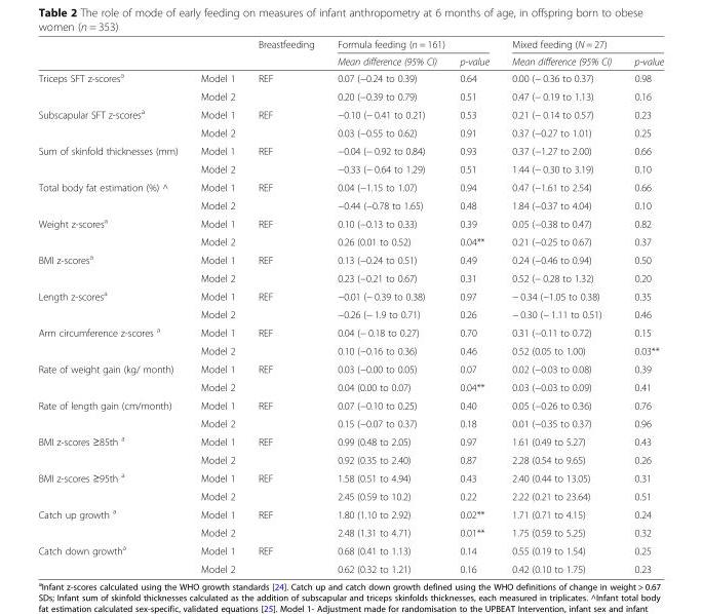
<table><thead><tr><td rowspan="2"></td><td rowspan="2"></td><td rowspan="2">Breastfeeding</td><td colspan="2">Formula feeding (n = 161)</td><td colspan="2">Mixed feeding (N = 27)</td></tr><tr><td>Mean difference (95% CI)</td><td>p-value</td><td>Mean difference (95% CI)</td><td>p-value</td></tr></thead><tbody><tr><td rowspan="2">Triceps SFT z-scores<sup>a</sup></td><td>Model 1</td><td rowspan="2">REF</td><td>0.07 (−0.24 to 0.39)</td><td>0.64</td><td>0.00 (− 0.36 to 0.37)</td><td>0.98</td></tr><tr><td>Model 2</td><td>0.20 (−0.39 to 0.79)</td><td>0.51</td><td>0.47 (− 0.19 to 1.13)</td><td>0.16</td></tr><tr><td rowspan="2">Subscapular SFT z-scores<sup>a</sup></td><td>Model 1</td><td rowspan="2">REF</td><td>−0.10 (− 0.41 to 0.21)</td><td>0.53</td><td>0.21 (− 0.14 to 0.57)</td><td>0.23</td></tr><tr><td>Model 2</td><td>0.03 (−0.55 to 0.62)</td><td>0.91</td><td>0.37 (−0.27 to 1.01)</td><td>0.25</td></tr><tr><td rowspan="2">Sum of skinfold thicknesses (mm)</td><td>Model 1</td><td rowspan="2">REF</td><td>−0.04 (− 0.92 to 0.84)</td><td>0.93</td><td>0.37 (−1.27 to 2.00)</td><td>0.66</td></tr><tr><td>Model 2</td><td>−0.33 (− 0.64 to 1.29)</td><td>0.51</td><td>1.44 (− 0.30 to 3.19)</td><td>0.10</td></tr><tr><td rowspan="2">Total body fat estimation (%) ^</td><td>Model 1</td><td rowspan="2">REF</td><td>0.04 (−1.15 to 1.07)</td><td>0.94</td><td>0.47 (−1.61 to 2.54)</td><td>0.66</td></tr><tr><td>Model 2</td><td>−0.44 (−0.78 to 1.65)</td><td>0.48</td><td>1.84 (−0.37 to 4.04)</td><td>0.10</td></tr><tr><td rowspan="2">Weight z-scores<sup>a</sup></td><td>Model 1</td><td rowspan="2">REF</td><td>0.10 (−0.13 to 0.33)</td><td>0.39</td><td>0.05 (−0.38 to 0.47)</td><td>0.82</td></tr><tr><td>Model 2</td><td>0.26 (0.01 to 0.52)</td><td>0.04**</td><td>0.21 (−0.25 to 0.67)</td><td>0.37</td></tr><tr><td rowspan="2">BMI z-scores<sup>a</sup></td><td>Model 1</td><td rowspan="2">REF</td><td>0.13 (−0.24 to 0.51)</td><td>0.49</td><td>0.24 (−0.46 to 0.94)</td><td>0.50</td></tr><tr><td>Model 2</td><td>0.23 (−0.21 to 0.67)</td><td>0.31</td><td>0.52 (− 0.28 to 1.32)</td><td>0.20</td></tr><tr><td rowspan="2">Length z-scores<sup>a</sup></td><td>Model 1</td><td rowspan="2">REF</td><td>−0.01 (− 0.39 to 0.38)</td><td>0.97</td><td>− 0.34 (−1.05 to 0.38)</td><td>0.35</td></tr><tr><td>Model 2</td><td>−0.26 (− 1.9 to 0.71)</td><td>0.26</td><td>− 0.30 (− 1.11 to 0.51)</td><td>0.46</td></tr><tr><td rowspan="2">Arm circumference z-scores <sup>a</sup></td><td>Model 1</td><td rowspan="2">REF</td><td>0.04 (− 0.18 to 0.27)</td><td>0.70</td><td>0.31 (−0.11 to 0.72)</td><td>0.15</td></tr><tr><td>Model 2</td><td>0.10 (−0.16 to 0.36)</td><td>0.46</td><td>0.52 (0.05 to 1.00)</td><td>0.03**</td></tr><tr><td rowspan="2">Rate of weight gain (kg/ month)</td><td>Model 1</td><td rowspan="2">REF</td><td>0.03 (−0.00 to 0.05)</td><td>0.07</td><td>0.02 (−0.03 to 0.08)</td><td>0.39</td></tr><tr><td>Model 2</td><td>0.04 (0.00 to 0.07)</td><td>0.04**</td><td>0.03 (−0.03 to 0.09)</td><td>0.41</td></tr><tr><td rowspan="2">Rate of length gain (cm/month)</td><td>Model 1</td><td rowspan="2">REF</td><td>0.07 (−0.10 to 0.25)</td><td>0.40</td><td>0.05 (−0.26 to 0.36)</td><td>0.76</td></tr><tr><td>Model 2</td><td>0.15 (−0.07 to 0.37)</td><td>0.18</td><td>0.01 (−0.35 to 0.37)</td><td>0.96</td></tr><tr><td rowspan="2">BMI z-scores ≥85th <sup>a</sup></td><td>Model 1</td><td rowspan="2">REF</td><td>0.99 (0.48 to 2.05)</td><td>0.97</td><td>1.61 (0.49 to 5.27)</td><td>0.43</td></tr><tr><td>Model 2</td><td>0.92 (0.35 to 2.40)</td><td>0.87</td><td>2.28 (0.54 to 9.65)</td><td>0.26</td></tr><tr><td rowspan="2">BMI z-scores ≥95th <sup>a</sup></td><td>Model 1</td><td rowspan="2">REF</td><td>1.58 (0.51 to 4.94)</td><td>0.43</td><td>2.40 (0.44 to 13.05)</td><td>0.31</td></tr><tr><td>Model 2</td><td>2.45 (0.59 to 10.2)</td><td>0.22</td><td>2.22 (0.21 to 23.64)</td><td>0.51</td></tr><tr><td rowspan="2">Catch up growth <sup>a</sup></td><td>Model 1</td><td rowspan="2">REF</td><td>1.80 (1.10 to 2.92)</td><td>0.02**</td><td>1.71 (0.71 to 4.15)</td><td>0.24</td></tr><tr><td>Model 2</td><td>2.48 (1.31 to 4.71)</td><td>0.01**</td><td>1.75 (0.59 to 5.25)</td><td>0.32</td></tr><tr><td rowspan="2">Catch down growth<sup>a</sup></td><td>Model 1</td><td rowspan="2">REF</td><td>0.68 (0.41 to 1.13)</td><td>0.14</td><td>0.55 (0.19 to 1.54)</td><td>0.25</td></tr><tr><td>Model 2</td><td>0.62 (0.32 to 1.21)</td><td>0.16</td><td>0.42 (0.10 to 1.75)</td><td>0.23</td></tr></tbody></table>